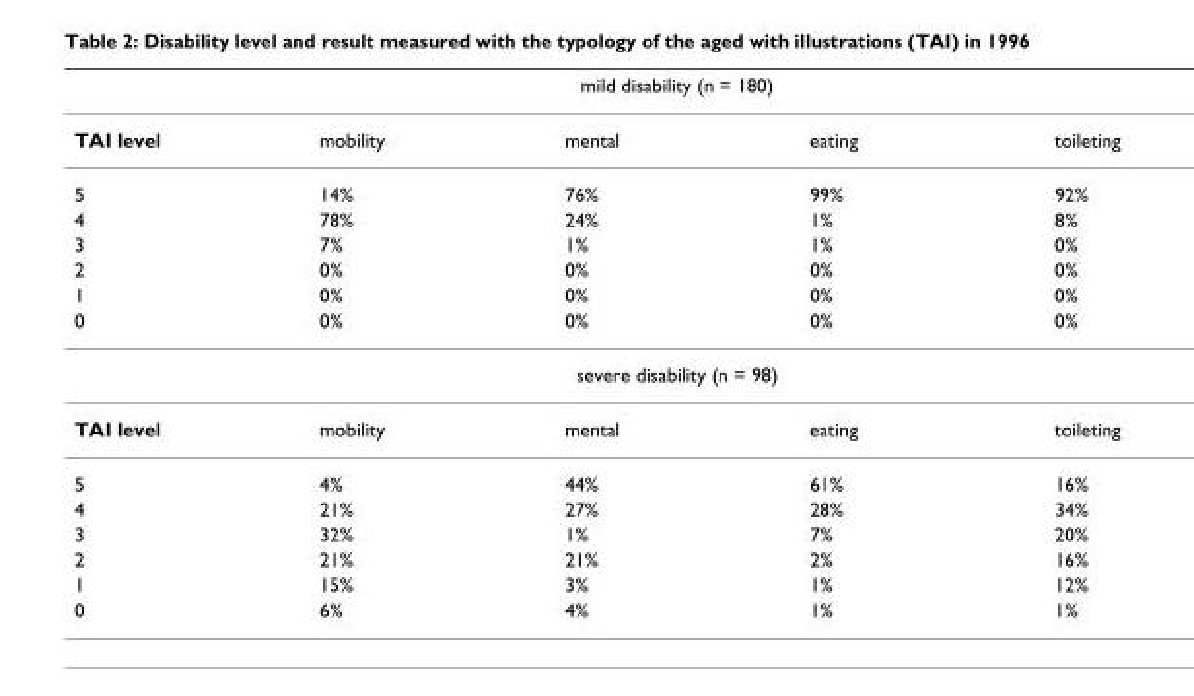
<table><thead><tr><td colspan="5">mild disability (n = 180)</td></tr><tr><td>TAI level</td><td>mobility</td><td>mental</td><td>eating</td><td>toileting</td></tr></thead><tbody><tr><td>5</td><td>14%</td><td>76%</td><td>99%</td><td>92%</td></tr><tr><td>4</td><td>78%</td><td>24%</td><td>1%</td><td>8%</td></tr><tr><td>3</td><td>7%</td><td>1%</td><td>1%</td><td>0%</td></tr><tr><td>2</td><td>0%</td><td>0%</td><td>0%</td><td>0%</td></tr><tr><td>1</td><td>0%</td><td>0%</td><td>0%</td><td>0%</td></tr><tr><td>0</td><td>0%</td><td>0%</td><td>0%</td><td>0%</td></tr><tr><td colspan="5">severe disability (n = 98)</td></tr><tr><td>TAI level</td><td>mobility</td><td>mental</td><td>eating</td><td>toileting</td></tr><tr><td>5</td><td>4%</td><td>44%</td><td>61%</td><td>16%</td></tr><tr><td>4</td><td>21%</td><td>27%</td><td>28%</td><td>34%</td></tr><tr><td>3</td><td>32%</td><td>1%</td><td>7%</td><td>20%</td></tr><tr><td>2</td><td>21%</td><td>21%</td><td>2%</td><td>16%</td></tr><tr><td>1</td><td>15%</td><td>3%</td><td>1%</td><td>12%</td></tr><tr><td>0</td><td>6%</td><td>4%</td><td>1%</td><td>1%</td></tr></tbody></table>